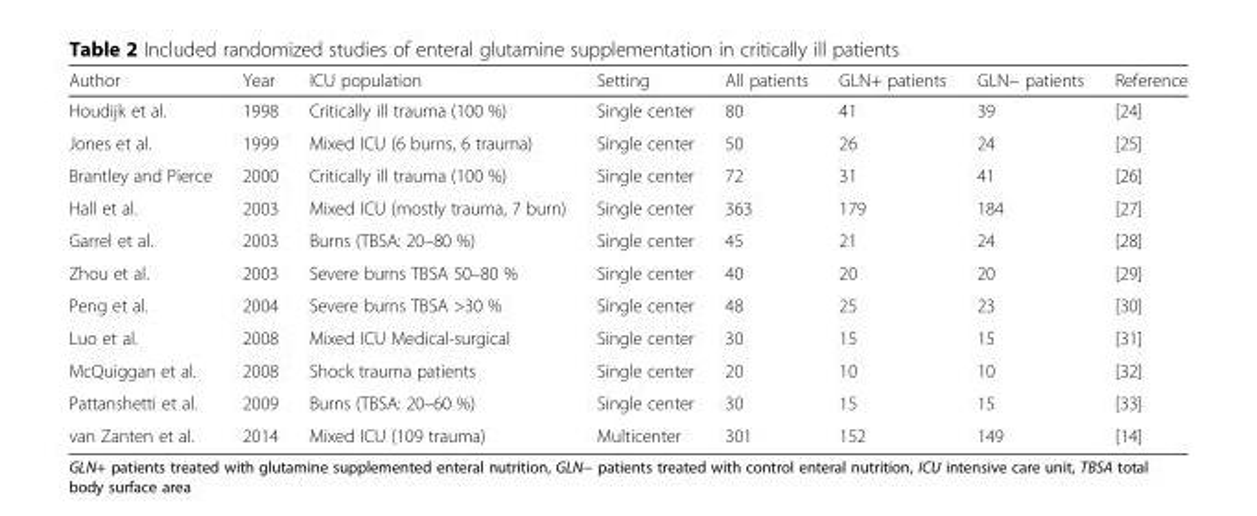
<table><thead><tr><td>Author</td><td>Year</td><td>ICU population</td><td>Setting</td><td>All patients</td><td>GLN+ patients</td><td>GLN− patients</td><td>Reference</td></tr></thead><tbody><tr><td>Houdijk et al.</td><td>1998</td><td>Critically ill trauma (100 %)</td><td>Single center</td><td>80</td><td>41</td><td>39</td><td>[24]</td></tr><tr><td>Jones et al.</td><td>1999</td><td>Mixed ICU (6 burns, 6 trauma)</td><td>Single center</td><td>50</td><td>26</td><td>24</td><td>[25]</td></tr><tr><td>Brantley and Pierce</td><td>2000</td><td>Critically ill trauma (100 %)</td><td>Single center</td><td>72</td><td>31</td><td>41</td><td>[26]</td></tr><tr><td>Hall et al.</td><td>2003</td><td>Mixed ICU (mostly trauma, 7 burn)</td><td>Single center</td><td>363</td><td>179</td><td>184</td><td>[27]</td></tr><tr><td>Garrel et al.</td><td>2003</td><td>Burns (TBSA: 20–80 %)</td><td>Single center</td><td>45</td><td>21</td><td>24</td><td>[28]</td></tr><tr><td>Zhou et al.</td><td>2003</td><td>Severe burns TBSA 50–80 %</td><td>Single center</td><td>40</td><td>20</td><td>20</td><td>[29]</td></tr><tr><td>Peng et al.</td><td>2004</td><td>Severe burns TBSA &gt;30 %</td><td>Single center</td><td>48</td><td>25</td><td>23</td><td>[30]</td></tr><tr><td>Luo et al.</td><td>2008</td><td>Mixed ICU Medical-surgical</td><td>Single center</td><td>30</td><td>15</td><td>15</td><td>[31]</td></tr><tr><td>McQuiggan et al.</td><td>2008</td><td>Shock trauma patients</td><td>Single center</td><td>20</td><td>10</td><td>10</td><td>[32]</td></tr><tr><td>Pattanshetti et al.</td><td>2009</td><td>Burns (TBSA: 20–60 %)</td><td>Single center</td><td>30</td><td>15</td><td>15</td><td>[33]</td></tr><tr><td>van Zanten et al.</td><td>2014</td><td>Mixed ICU (109 trauma)</td><td>Multicenter</td><td>301</td><td>152</td><td>149</td><td>[14]</td></tr></tbody></table>